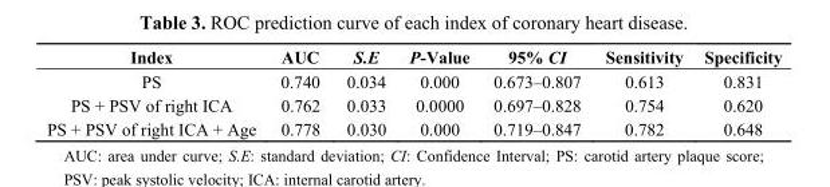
<table><thead><tr><td>Index</td><td>AUC</td><td>S.E</td><td>P-Value</td><td>95% CI</td><td>Sensitivity</td><td>Specificity</td></tr></thead><tbody><tr><td>PS</td><td>0.740</td><td>0.034</td><td>0.000</td><td>0.673–0.807</td><td>0.613</td><td>0.831</td></tr><tr><td>PS + PSV of right ICA</td><td>0.762</td><td>0.033</td><td>0.0000</td><td>0.697–0.828</td><td>0.754</td><td>0.620</td></tr><tr><td>PS + PSV of right ICA + Age</td><td>0.778</td><td>0.030</td><td>0.000</td><td>0.719–0.847</td><td>0.782</td><td>0.648</td></tr></tbody></table>